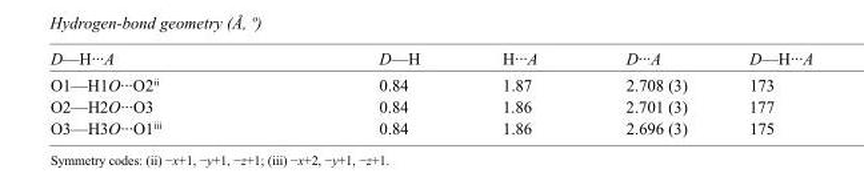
<table><tbody><tr><td>D—H···A</td><td>D—H</td><td>H···A</td><td>D···A</td><td>D—H···A</td></tr><tr><td>O1—H1O···O2<sup>ii</sup></td><td>0.84</td><td>1.87</td><td>2.708 (3)</td><td>173</td></tr><tr><td>O2—H2O···O3</td><td>0.84</td><td>1.86</td><td>2.701 (3)</td><td>177</td></tr><tr><td>O3—H3O···O1<sup>iii</sup></td><td>0.84</td><td>1.86</td><td>2.696 (3)</td><td>175</td></tr></tbody></table>